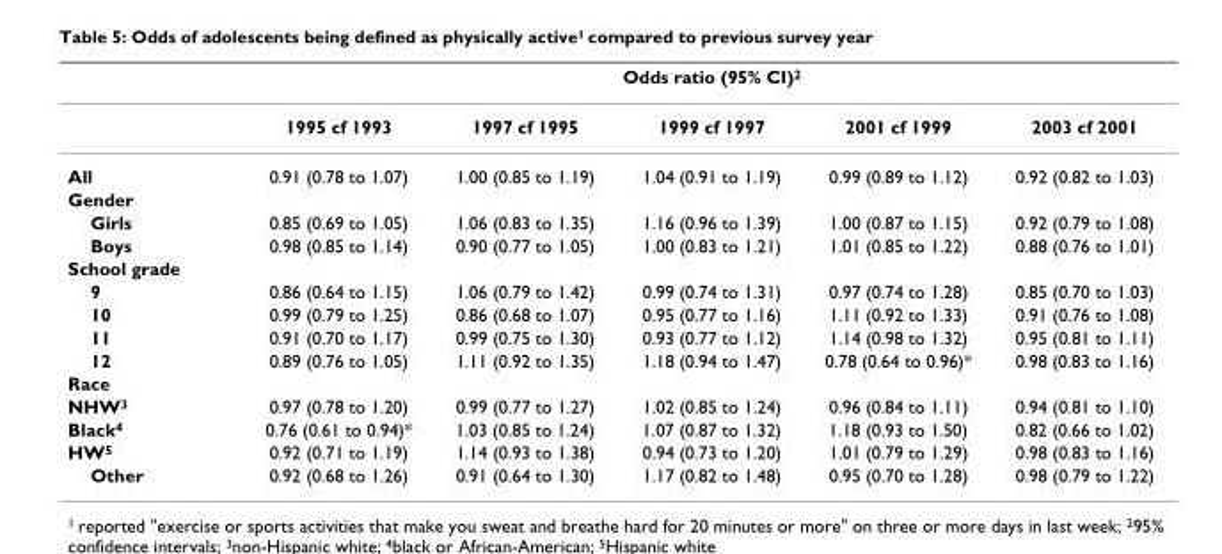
<table><thead><tr><td rowspan="2"></td><td colspan="5">Odds ratio (95% CI)2</td></tr><tr><td>1995 cf 1993</td><td>1997 cf 1995</td><td>1999 cf 1997</td><td>2001 cf 1999</td><td>2003 cf 2001</td></tr></thead><tbody><tr><td>All</td><td>0.91 (0.78 to 1.07)</td><td>1.00 (0.85 to 1.19)</td><td>1.04 (0.91 to 1.19)</td><td>0.99 (0.89 to 1.12)</td><td>0.92 (0.82 to 1.03)</td></tr><tr><td colspan="6">Gender</td></tr><tr><td>Girls</td><td>0.85 (0.69 to 1.05)</td><td>1.06 (0.83 to 1.35)</td><td>1.16 (0.96 to 1.39)</td><td>1.00 (0.87 to 1.15)</td><td>0.92 (0.79 to 1.08)</td></tr><tr><td>Boys</td><td>0.98 (0.85 to 1.14)</td><td>0.90 (0.77 to 1.05)</td><td>1.00 (0.83 to 1.21)</td><td>1.01 (0.85 to 1.22)</td><td>0.88 (0.76 to 1.01)</td></tr><tr><td colspan="6">School grade</td></tr><tr><td>9</td><td>0.86 (0.64 to 1.15)</td><td>1.06 (0.79 to 1.42)</td><td>0.99 (0.74 to 1.31)</td><td>0.97 (0.74 to 1.28)</td><td>0.85 (0.70 to 1.03)</td></tr><tr><td>10</td><td>0.99 (0.79 to 1.25)</td><td>0.86 (0.68 to 1.07)</td><td>0.95 (0.77 to 1.16)</td><td>1.11 (0.92 to 1.33)</td><td>0.91 (0.76 to 1.08)</td></tr><tr><td>11</td><td>0.91 (0.70 to 1.17)</td><td>0.99 (0.75 to 1.30)</td><td>0.93 (0.77 to 1.12)</td><td>1.14 (0.98 to 1.32)</td><td>0.95 (0.81 to 1.11)</td></tr><tr><td>12</td><td>0.89 (0.76 to 1.05)</td><td>1.11 (0.92 to 1.35)</td><td>1.18 (0.94 to 1.47)</td><td>0.78 (0.64 to 0.96)*</td><td>0.98 (0.83 to 1.16)</td></tr><tr><td colspan="6">Race</td></tr><tr><td>NHW3</td><td>0.97 (0.78 to 1.20)</td><td>0.99 (0.77 to 1.27)</td><td>1.02 (0.85 to 1.24)</td><td>0.96 (0.84 to 1.11)</td><td>0.94 (0.81 to 1.10)</td></tr><tr><td>Black4</td><td>0.76 (0.61 to 0.94)*</td><td>1.03 (0.85 to 1.24)</td><td>1.07 (0.87 to 1.32)</td><td>1.18 (0.93 to 1.50)</td><td>0.82 (0.66 to 1.02)</td></tr><tr><td>HW5</td><td>0.92 (0.71 to 1.19)</td><td>1.14 (0.93 to 1.38)</td><td>0.94 (0.73 to 1.20)</td><td>1.01 (0.79 to 1.29)</td><td>0.98 (0.83 to 1.16)</td></tr><tr><td>Other</td><td>0.92 (0.68 to 1.26)</td><td>0.91 (0.64 to 1.30)</td><td>1.17 (0.82 to 1.48)</td><td>0.95 (0.70 to 1.28)</td><td>0.98 (0.79 to 1.22)</td></tr></tbody></table>